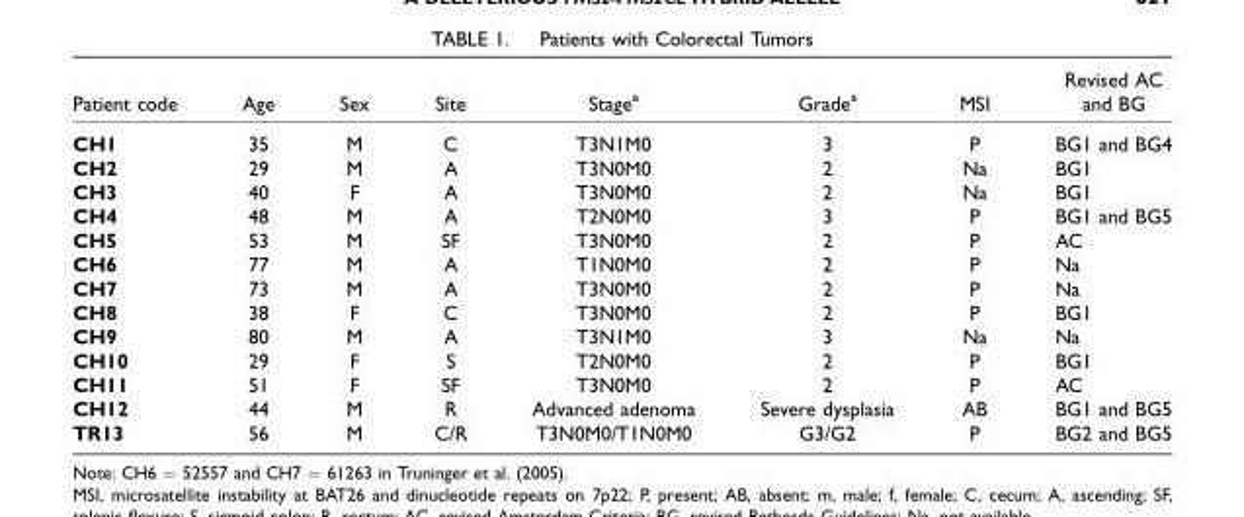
<table><thead><tr><td>Patient code</td><td>Age</td><td>Sex</td><td>Site</td><td>Stage<sup>a</sup></td><td>Grade<sup>a</sup></td><td>MSI</td><td>Revised AC and BG</td></tr></thead><tbody><tr><td>CH1</td><td>35</td><td>M</td><td>C</td><td>T3N1M0</td><td>3</td><td>P</td><td>BG1 and BG4</td></tr><tr><td>CH2</td><td>29</td><td>M</td><td>A</td><td>T3N0M0</td><td>2</td><td>Na</td><td>BG1</td></tr><tr><td>CH3</td><td>40</td><td>F</td><td>A</td><td>T3N0M0</td><td>2</td><td>Na</td><td>BG1</td></tr><tr><td>CH4</td><td>48</td><td>M</td><td>A</td><td>T2N0M0</td><td>3</td><td>P</td><td>BG1 and BG5</td></tr><tr><td>CH5</td><td>53</td><td>M</td><td>SF</td><td>T3N0M0</td><td>2</td><td>P</td><td>AC</td></tr><tr><td>CH6</td><td>77</td><td>M</td><td>A</td><td>T1N0M0</td><td>2</td><td>P</td><td>Na</td></tr><tr><td>CH7</td><td>73</td><td>M</td><td>A</td><td>T3N0M0</td><td>2</td><td>P</td><td>Na</td></tr><tr><td>CH8</td><td>38</td><td>F</td><td>C</td><td>T3N0M0</td><td>2</td><td>P</td><td>BG1</td></tr><tr><td>CH9</td><td>80</td><td>M</td><td>A</td><td>T3N1M0</td><td>3</td><td>Na</td><td>Na</td></tr><tr><td>CH10</td><td>29</td><td>F</td><td>S</td><td>T2N0M0</td><td>2</td><td>P</td><td>BG1</td></tr><tr><td>CH11</td><td>51</td><td>F</td><td>SF</td><td>T3N0M0</td><td>2</td><td>P</td><td>AC</td></tr><tr><td>CH12</td><td>44</td><td>M</td><td>R</td><td>Advanced adenoma</td><td>Severe dysplasia</td><td>AB</td><td>BG1 and BG5</td></tr><tr><td>TR13</td><td>56</td><td>M</td><td>C/R</td><td>T3N0M0/T1N0M0</td><td>G3/G2</td><td>P</td><td>BG2 and BG5</td></tr></tbody></table>